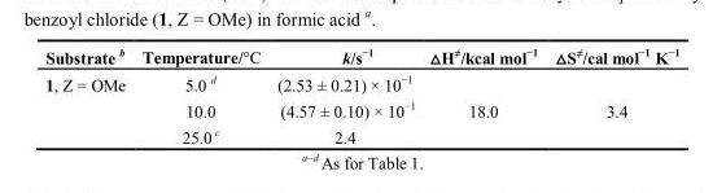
<table><thead><tr><td>Substrate <sup>b</sup></td><td>Temperature/°C</td><td>k/s<sup>−1</sup></td><td>△H≠/kcal mol−1</td><td>△S≠/cal mol−1 K−1</td></tr></thead><tbody><tr><td rowspan="3">1, Z = OMe</td><td>5.0 <sup>d</sup></td><td>(2.53 ± 0.21) × 10<sup>−1</sup></td><td rowspan="3">18.0</td><td rowspan="3">3.4</td></tr><tr><td>10.0</td><td>(4.57 ± 0.10) × 10<sup>−1</sup></td></tr><tr><td>25.0 <sup>c</sup></td><td>2.4</td></tr></tbody></table>